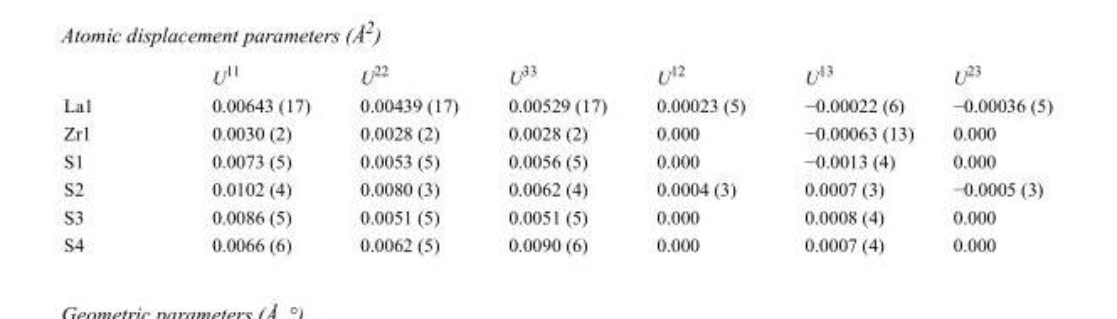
<table><thead><tr><td></td><td>U<sup>11</sup></td><td>U<sup>22</sup></td><td>U<sup>33</sup></td><td>U<sup>12</sup></td><td>U<sup>13</sup></td><td>U<sup>23</sup></td></tr></thead><tbody><tr><td>La1</td><td>0.00643 (17)</td><td>0.00439 (17)</td><td>0.00529 (17)</td><td>0.00023 (5)</td><td>−0.00022 (6)</td><td>−0.00036 (5)</td></tr><tr><td>Zr1</td><td>0.0030 (2)</td><td>0.0028 (2)</td><td>0.0028 (2)</td><td>0.000</td><td>−0.00063 (13)</td><td>0.000</td></tr><tr><td>S1</td><td>0.0073 (5)</td><td>0.0053 (5)</td><td>0.0056 (5)</td><td>0.000</td><td>−0.0013 (4)</td><td>0.000</td></tr><tr><td>S2</td><td>0.0102 (4)</td><td>0.0080 (3)</td><td>0.0062 (4)</td><td>0.0004 (3)</td><td>0.0007 (3)</td><td>−0.0005 (3)</td></tr><tr><td>S3</td><td>0.0086 (5)</td><td>0.0051 (5)</td><td>0.0051 (5)</td><td>0.000</td><td>0.0008 (4)</td><td>0.000</td></tr><tr><td>S4</td><td>0.0066 (6)</td><td>0.0062 (5)</td><td>0.0090 (6)</td><td>0.000</td><td>0.0007 (4)</td><td>0.000</td></tr></tbody></table>